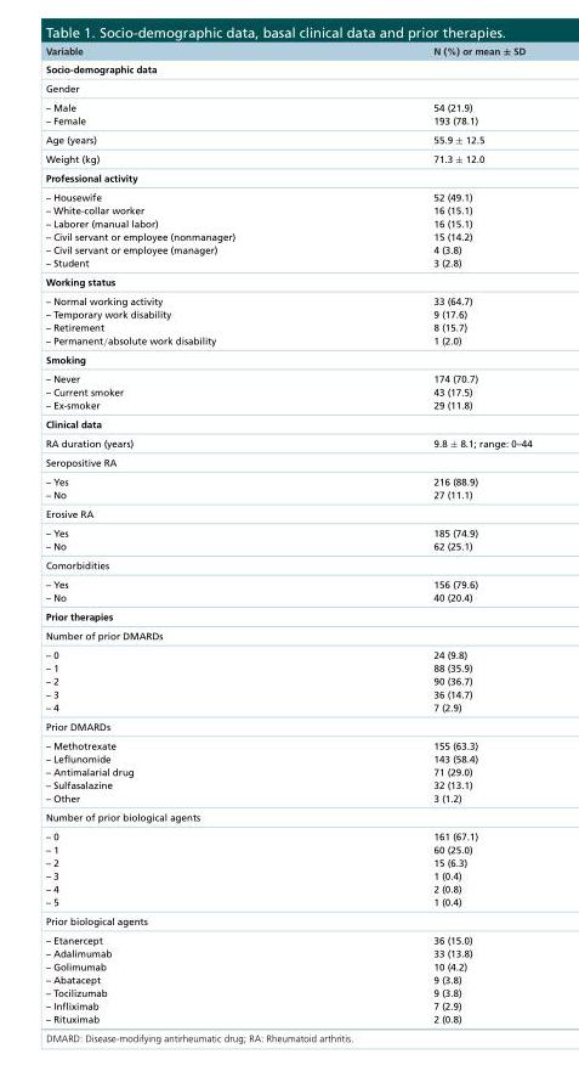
<table><thead><tr><td>Variable</td><td>N (%) or mean ± SD</td></tr></thead><tbody><tr><td colspan="2">Socio-demographic data</td></tr><tr><td colspan="2">Gender</td></tr><tr><td>– Male – Female</td><td>54 (21.9) 193 (78.1)</td></tr><tr><td>Age (years)</td><td>55.9 ± 12.5</td></tr><tr><td>Weight (kg)</td><td>71.3 ± 12.0</td></tr><tr><td colspan="2">Professional activity</td></tr><tr><td>– Housewife – White-collar worker – Laborer (manual labor) – Civil servant or employee (nonmanager) – Civil servant or employee (manager) – Student</td><td>52 (49.1) 16 (15.1) 16 (15.1) 15 (14.2) 4 (3.8) 3 (2.8)</td></tr><tr><td colspan="2">Working status</td></tr><tr><td>– Normal working activity – Temporary work disability – Retirement – Permanent/absolute work disability</td><td>33 (64.7) 9 (17.6) 8 (15.7) 1 (2.0)</td></tr><tr><td colspan="2">Smoking</td></tr><tr><td>– Never – Current smoker – Ex-smoker</td><td>174 (70.7) 43 (17.5) 29 (11.8)</td></tr><tr><td colspan="2">Clinical data</td></tr><tr><td>RA duration (years)</td><td>9.8 ± 8.1; range: 0–44</td></tr><tr><td colspan="2">Seropositive RA</td></tr><tr><td>– Yes – No</td><td>216 (88.9) 27 (11.1)</td></tr><tr><td colspan="2">Erosive RA</td></tr><tr><td>– Yes – No</td><td>185 (74.9) 62 (25.1)</td></tr><tr><td colspan="2">Comorbidities</td></tr><tr><td>– Yes – No</td><td>156 (79.6) 40 (20.4)</td></tr><tr><td colspan="2">Prior therapies</td></tr><tr><td colspan="2">Number of prior DMARDs</td></tr><tr><td>– 0 – 1 – 2 – 3 – 4</td><td>24 (9.8) 88 (35.9) 90 (36.7) 36 (14.7) 7 (2.9)</td></tr><tr><td colspan="2">Prior DMARDs</td></tr><tr><td>– Methotrexate – Leflunomide – Antimalarial drug – Sulfasalazine – Other</td><td>155 (63.3) 143 (58.4) 71 (29.0) 32 (13.1) 3 (1.2)</td></tr><tr><td colspan="2">Number of prior biological agents</td></tr><tr><td>– 0 – 1 – 2 – 3 – 4 – 5</td><td>161 (67.1) 60 (25.0) 15 (6.3) 1 (0.4) 2 (0.8) 1 (0.4)</td></tr><tr><td colspan="2">Prior biological agents</td></tr><tr><td>– Etanercept – Adalimumab – Golimumab – Abatacept – Tocilizumab – Infliximab – Rituximab</td><td>36 (15.0) 33 (13.8) 10 (4.2) 9 (3.8) 9 (3.8) 7 (2.9) 2 (0.8)</td></tr></tbody></table>